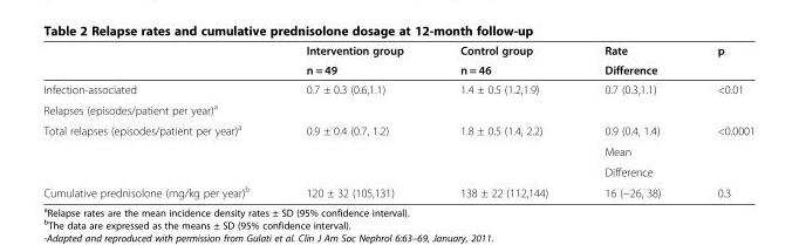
<table><thead><tr><td rowspan="2"></td><td rowspan="2">Intervention group n = 49</td><td rowspan="2">Control group n = 46</td><td rowspan="2">Rate Difference</td><td rowspan="2">p</td></tr><tr></tr></thead><tbody><tr><td>Infection-associated</td><td>0.7 ± 0.3 (0.6,1.1)</td><td>1.4 ± 0.5 (1.2,1.9)</td><td>0.7 (0.3,1.1)</td><td>&lt;0.01</td></tr><tr><td colspan="5">Relapses (episodes/patient per year)<sup>a</sup></td></tr><tr><td rowspan="3">Total relapses (episodes/patient per year)<sup>a</sup></td><td>0.9 ± 0.4 (0.7, 1.2)</td><td>1.8 ± 0.5 (1.4, 2.2)</td><td>0.9 (0.4, 1.4)</td><td>&lt;0.0001</td></tr><tr><td></td><td></td><td>Mean</td><td></td></tr><tr><td></td><td></td><td>Difference</td><td></td></tr><tr><td>Cumulative prednisolone (mg/kg per year)<sup>b</sup></td><td>120 ± 32 (105,131)</td><td>138 ± 22 (112,144)</td><td>16 (−26, 38)</td><td>0.3</td></tr></tbody></table>